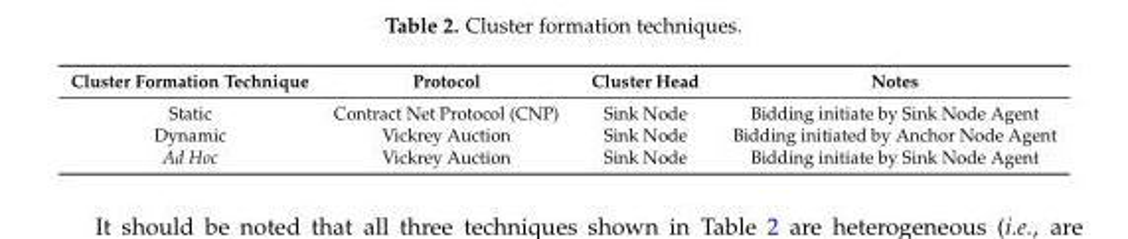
<table><thead><tr><td>Cluster Formation Technique</td><td>Protocol</td><td>Cluster Head</td><td>Notes</td></tr></thead><tbody><tr><td>Static</td><td>Contract Net Protocol (CNP)</td><td>Sink Node</td><td>Bidding initiate by Sink Node Agent</td></tr><tr><td>Dynamic</td><td>Vickrey Auction</td><td>Sink Node</td><td>Bidding initiated by Anchor Node Agent</td></tr><tr><td>Ad Hoc</td><td>Vickrey Auction</td><td>Sink Node</td><td>Bidding initiate by Sink Node Agent</td></tr></tbody></table>